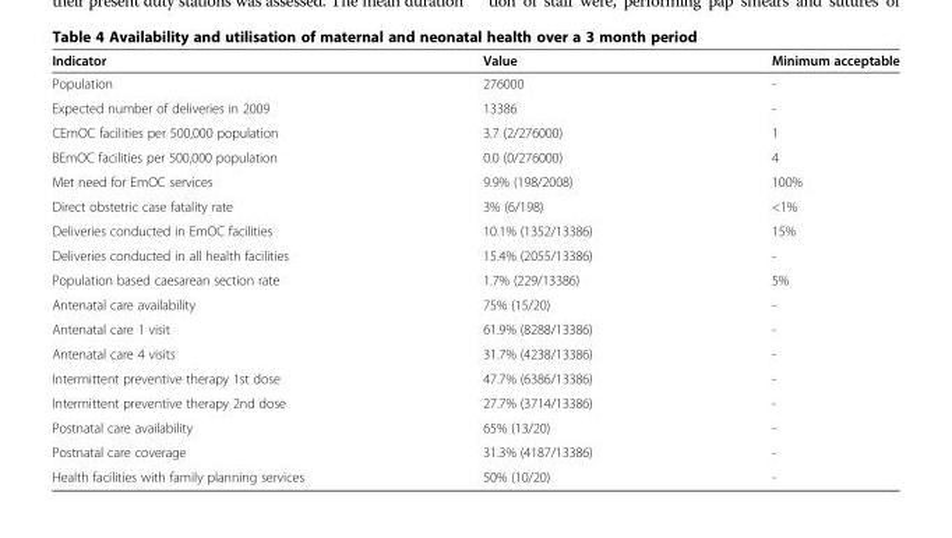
<table><thead><tr><td>Indicator</td><td>Value</td><td>Minimum acceptable</td></tr></thead><tbody><tr><td>Population</td><td>276000</td><td>-</td></tr><tr><td>Expected number of deliveries in 2009</td><td>13386</td><td>-</td></tr><tr><td>CEmOC facilities per 500,000 population</td><td>3.7 (2/276000)</td><td>1</td></tr><tr><td>BEmOC facilities per 500,000 population</td><td>0.0 (0/276000)</td><td>4</td></tr><tr><td>Met need for EmOC services</td><td>9.9% (198/2008)</td><td>100%</td></tr><tr><td>Direct obstetric case fatality rate</td><td>3% (6/198)</td><td>&lt;1%</td></tr><tr><td>Deliveries conducted in EmOC facilities</td><td>10.1% (1352/13386)</td><td>15%</td></tr><tr><td>Deliveries conducted in all health facilities</td><td>15.4% (2055/13386)</td><td>-</td></tr><tr><td>Population based caesarean section rate</td><td>1.7% (229/13386)</td><td>5%</td></tr><tr><td>Antenatal care availability</td><td>75% (15/20)</td><td>-</td></tr><tr><td>Antenatal care 1 visit</td><td>61.9% (8288/13386)</td><td>-</td></tr><tr><td>Antenatal care 4 visits</td><td>31.7% (4238/13386)</td><td>-</td></tr><tr><td>Intermittent preventive therapy 1st dose</td><td>47.7% (6386/13386)</td><td>-</td></tr><tr><td>Intermittent preventive therapy 2nd dose</td><td>27.7% (3714/13386)</td><td>-</td></tr><tr><td>Postnatal care availability</td><td>65% (13/20)</td><td>-</td></tr><tr><td>Postnatal care coverage</td><td>31.3% (4187/13386)</td><td>-</td></tr><tr><td>Health facilities with family planning services</td><td>50% (10/20)</td><td>-</td></tr></tbody></table>